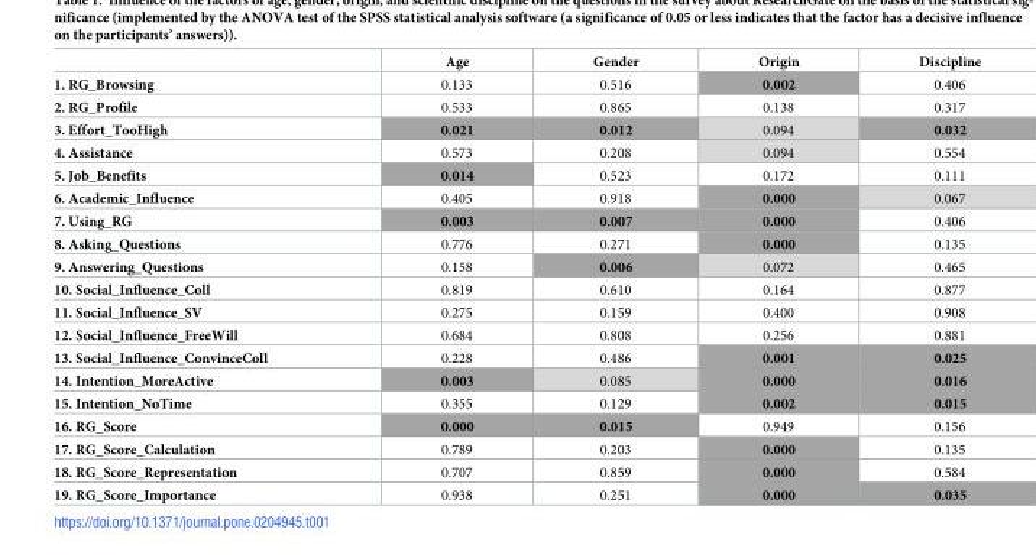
<table><thead><tr><td></td><td>Age</td><td>Gender</td><td>Origin</td><td>Discipline</td></tr></thead><tbody><tr><td>1. RG_Browsing</td><td>0.133</td><td>0.516</td><td>0.002</td><td>0.406</td></tr><tr><td>2. RG_Profile</td><td>0.533</td><td>0.865</td><td>0.138</td><td>0.317</td></tr><tr><td>3. Effort_TooHigh</td><td>0.021</td><td>0.012</td><td>0.094</td><td>0.032</td></tr><tr><td>4. Assistance</td><td>0.573</td><td>0.208</td><td>0.094</td><td>0.554</td></tr><tr><td>5. Job_Benefits</td><td>0.014</td><td>0.523</td><td>0.172</td><td>0.111</td></tr><tr><td>6. Academic_Influence</td><td>0.405</td><td>0.918</td><td>0.000</td><td>0.067</td></tr><tr><td>7. Using_RG</td><td>0.003</td><td>0.007</td><td>0.000</td><td>0.406</td></tr><tr><td>8. Asking_Questions</td><td>0.776</td><td>0.271</td><td>0.000</td><td>0.135</td></tr><tr><td>9. Answering_Questions</td><td>0.158</td><td>0.006</td><td>0.072</td><td>0.465</td></tr><tr><td>10. Social_Influence_Coll</td><td>0.819</td><td>0.610</td><td>0.164</td><td>0.877</td></tr><tr><td>11. Social_Influence_SV</td><td>0.275</td><td>0.159</td><td>0.400</td><td>0.908</td></tr><tr><td>12. Social_Influence_FreeWill</td><td>0.684</td><td>0.808</td><td>0.256</td><td>0.881</td></tr><tr><td>13. Social_Influence_ConvinceColl</td><td>0.228</td><td>0.486</td><td>0.001</td><td>0.025</td></tr><tr><td>14. Intention_MoreActive</td><td>0.003</td><td>0.085</td><td>0.000</td><td>0.016</td></tr><tr><td>15. Intention_NoTime</td><td>0.355</td><td>0.129</td><td>0.002</td><td>0.015</td></tr><tr><td>16. RG_Score</td><td>0.000</td><td>0.015</td><td>0.949</td><td>0.156</td></tr><tr><td>17. RG_Score_Calculation</td><td>0.789</td><td>0.203</td><td>0.000</td><td>0.135</td></tr><tr><td>18. RG_Score_Representation</td><td>0.707</td><td>0.859</td><td>0.000</td><td>0.584</td></tr><tr><td>19. RG_Score_Importance</td><td>0.938</td><td>0.251</td><td>0.000</td><td>0.035</td></tr></tbody></table>